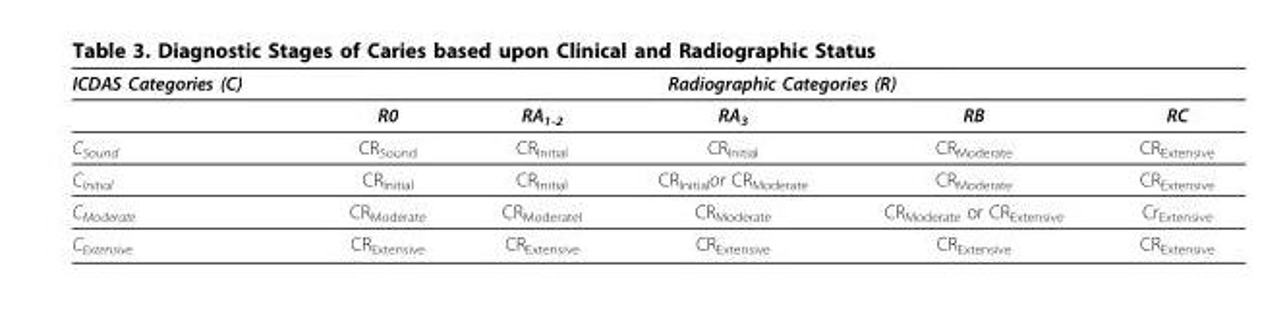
<table><thead><tr><td rowspan="2">ICDAS Categories (C)</td><td colspan="5">Radiographic Categories (R)</td></tr><tr><td>R0</td><td>RA<sub>1-2</sub></td><td>RA<sub>3</sub></td><td>RB</td><td>RC</td></tr></thead><tbody><tr><td>C<sub>Sound</sub></td><td>CR<sub>Sound</sub></td><td>CR<sub>Initial</sub></td><td>CR<sub>Initial</sub></td><td>CR<sub>Moderate</sub></td><td>CR<sub>Extensive</sub></td></tr><tr><td>C<sub>Initial</sub></td><td>CR<sub>Initial</sub></td><td>CR<sub>Initial</sub></td><td>CR<sub>Initial</sub>or CR<sub>Moderate</sub></td><td>CR<sub>Moderate</sub></td><td>CR<sub>Extensive</sub></td></tr><tr><td>C<sub>Moderate</sub></td><td>CR<sub>Moderate</sub></td><td>CR<sub>Moderatel</sub></td><td>CR<sub>Moderate</sub></td><td>CR<sub>Moderate</sub> or CR<sub>Extensive</sub></td><td>Cr<sub>Extensive</sub></td></tr><tr><td>C<sub>Extensive</sub></td><td>CR<sub>Extensive</sub></td><td>CR<sub>Extensive</sub></td><td>CR<sub>Extensive</sub></td><td>CR<sub>Extensive</sub></td><td>CR<sub>Extensive</sub></td></tr></tbody></table>